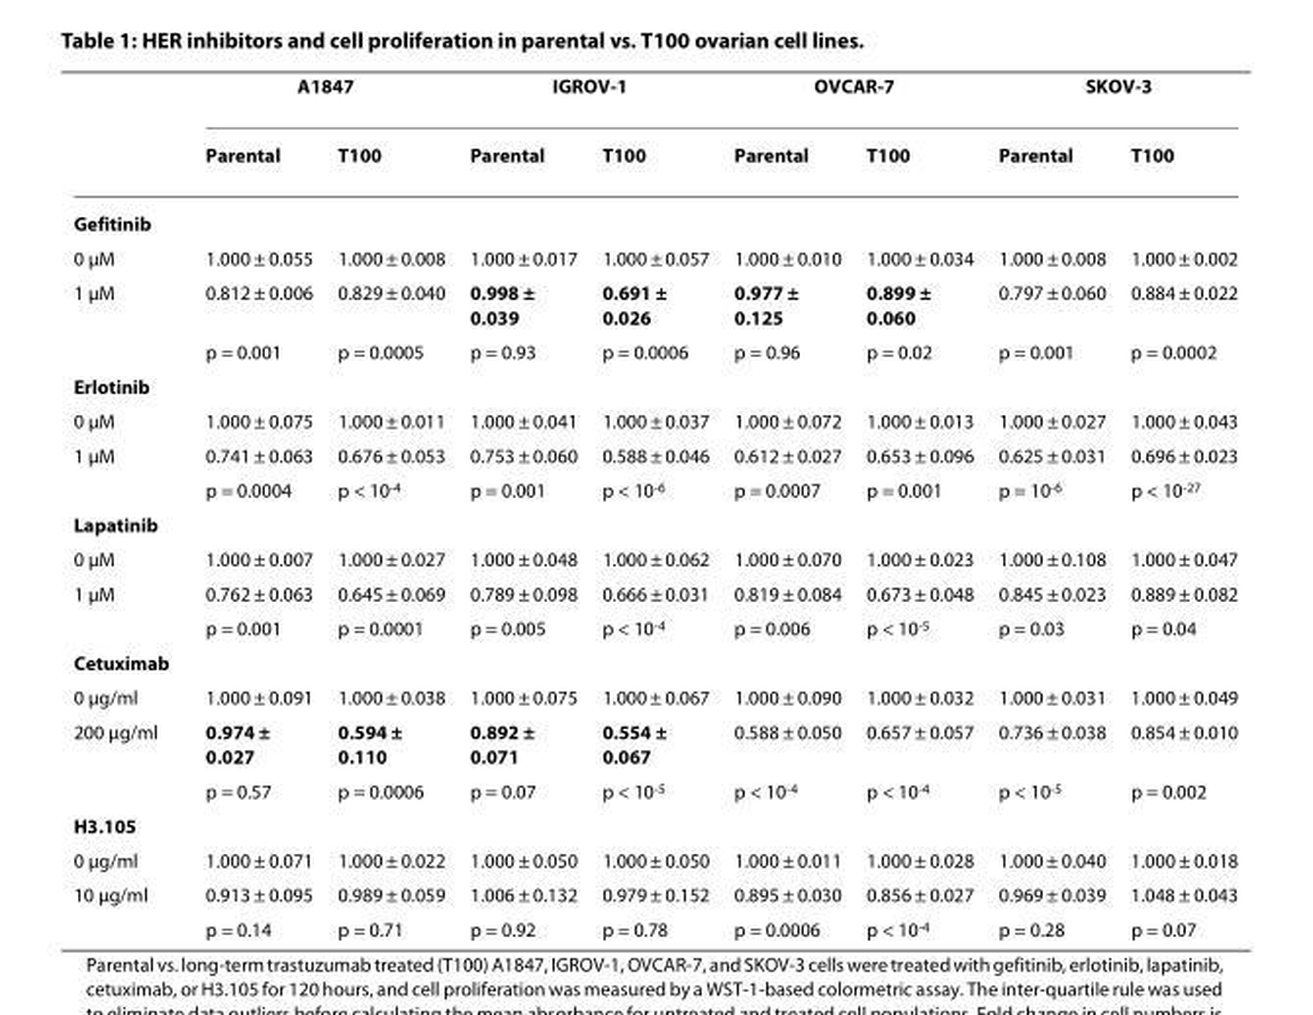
<table><thead><tr><td rowspan="2"></td><td colspan="2">A1847</td><td colspan="2">IGROV-1</td><td colspan="2">OVCAR-7</td><td colspan="2">SKOV-3</td></tr><tr><td>Parental</td><td>T100</td><td>Parental</td><td>T100</td><td>Parental</td><td>T100</td><td>Parental</td><td>T100</td></tr></thead><tbody><tr><td colspan="9">Gefitinib</td></tr><tr><td>0 μM</td><td>1.000 ± 0.055</td><td>1.000 ± 0.008</td><td>1.000 ± 0.017</td><td>1.000 ± 0.057</td><td>1.000 ± 0.010</td><td>1.000 ± 0.034</td><td>1.000 ± 0.008</td><td>1.000 ± 0.002</td></tr><tr><td rowspan="2">1 μM</td><td>0.812 ± 0.006</td><td>0.829 ± 0.040</td><td>0.998 ± 0.039</td><td>0.691 ± 0.026</td><td>0.977 ± 0.125</td><td>0.899 ± 0.060</td><td>0.797 ± 0.060</td><td>0.884 ± 0.022</td></tr><tr><td>p = 0.001</td><td>p = 0.0005</td><td>p = 0.93</td><td>p = 0.0006</td><td>p = 0.96</td><td>p = 0.02</td><td>p = 0.001</td><td>p = 0.0002</td></tr><tr><td colspan="9">Erlotinib</td></tr><tr><td>0 μM</td><td>1.000 ± 0.075</td><td>1.000 ± 0.011</td><td>1.000 ± 0.041</td><td>1.000 ± 0.037</td><td>1.000 ± 0.072</td><td>1.000 ± 0.013</td><td>1.000 ± 0.027</td><td>1.000 ± 0.043</td></tr><tr><td rowspan="2">1 μM</td><td>0.741 ± 0.063</td><td>0.676 ± 0.053</td><td>0.753 ± 0.060</td><td>0.588 ± 0.046</td><td>0.612 ± 0.027</td><td>0.653 ± 0.096</td><td>0.625 ± 0.031</td><td>0.696 ± 0.023</td></tr><tr><td>p = 0.0004</td><td>p &lt; 10<sup>-4</sup></td><td>p = 0.001</td><td>p &lt; 10<sup>-6</sup></td><td>p = 0.0007</td><td>p = 0.001</td><td>p = 10<sup>-6</sup></td><td>p &lt; 10<sup>-27</sup></td></tr><tr><td colspan="9">Lapatinib</td></tr><tr><td>0 μM</td><td>1.000 ± 0.007</td><td>1.000 ± 0.027</td><td>1.000 ± 0.048</td><td>1.000 ± 0.062</td><td>1.000 ± 0.070</td><td>1.000 ± 0.023</td><td>1.000 ± 0.108</td><td>1.000 ± 0.047</td></tr><tr><td rowspan="2">1 μM</td><td>0.762 ± 0.063</td><td>0.645 ± 0.069</td><td>0.789 ± 0.098</td><td>0.666 ± 0.031</td><td>0.819 ± 0.084</td><td>0.673 ± 0.048</td><td>0.845 ± 0.023</td><td>0.889 ± 0.082</td></tr><tr><td>p = 0.001</td><td>p = 0.0001</td><td>p = 0.005</td><td>p &lt; 10<sup>-4</sup></td><td>p = 0.006</td><td>p &lt; 10<sup>-5</sup></td><td>p = 0.03</td><td>p = 0.04</td></tr><tr><td colspan="9">Cetuximab</td></tr><tr><td>0 μg/ml</td><td>1.000 ± 0.091</td><td>1.000 ± 0.038</td><td>1.000 ± 0.075</td><td>1.000 ± 0.067</td><td>1.000 ± 0.090</td><td>1.000 ± 0.032</td><td>1.000 ± 0.031</td><td>1.000 ± 0.049</td></tr><tr><td rowspan="2">200 μg/ml</td><td>0.974 ± 0.027</td><td>0.594 ± 0.110</td><td>0.892 ± 0.071</td><td>0.554 ± 0.067</td><td>0.588 ± 0.050</td><td>0.657 ± 0.057</td><td>0.736 ± 0.038</td><td>0.854 ± 0.010</td></tr><tr><td>p = 0.57</td><td>p = 0.0006</td><td>p = 0.07</td><td>p &lt; 10<sup>-5</sup></td><td>p &lt; 10<sup>-4</sup></td><td>p &lt; 10<sup>-4</sup></td><td>p &lt; 10<sup>-5</sup></td><td>p = 0.002</td></tr><tr><td colspan="9">H3.105</td></tr><tr><td>0 μg/ml</td><td>1.000 ± 0.071</td><td>1.000 ± 0.022</td><td>1.000 ± 0.050</td><td>1.000 ± 0.050</td><td>1.000 ± 0.011</td><td>1.000 ± 0.028</td><td>1.000 ± 0.040</td><td>1.000 ± 0.018</td></tr><tr><td rowspan="2">10 μg/ml</td><td>0.913 ± 0.095</td><td>0.989 ± 0.059</td><td>1.006 ± 0.132</td><td>0.979 ± 0.152</td><td>0.895 ± 0.030</td><td>0.856 ± 0.027</td><td>0.969 ± 0.039</td><td>1.048 ± 0.043</td></tr><tr><td>p = 0.14</td><td>p = 0.71</td><td>p = 0.92</td><td>p = 0.78</td><td>p = 0.0006</td><td>p &lt; 10<sup>-4</sup></td><td>p = 0.28</td><td>p = 0.07</td></tr></tbody></table>